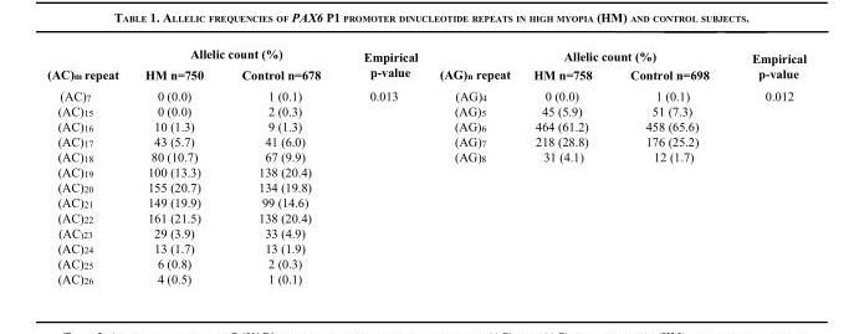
<table><thead><tr><td rowspan="2">(AC)<sub>m</sub> repeat</td><td colspan="2">Allelic count (%)</td><td rowspan="2">Empirical p-value</td><td rowspan="2">(AG)<sub>n</sub> repeat</td><td colspan="2">Allelic count (%)</td><td rowspan="2">Empirical p-value</td></tr><tr><td>HM n=750</td><td>Control n=678</td><td>HM n=758</td><td>Control n=698</td></tr></thead><tbody><tr><td>(AC)<sub>7</sub></td><td>0 (0.0)</td><td>1 (0.1)</td><td rowspan="13">0.013</td><td>(AG)<sub>4</sub></td><td>0 (0.0)</td><td>1 (0.1)</td><td rowspan="13">0.012</td></tr><tr><td>(AC)<sub>15</sub></td><td>0 (0.0)</td><td>2 (0.3)</td><td>(AG)<sub>5</sub></td><td>45 (5.9)</td><td>51 (7.3)</td></tr><tr><td>(AC)<sub>16</sub></td><td>10 (1.3)</td><td>9 (1.3)</td><td>(AG)<sub>6</sub></td><td>464 (61.2)</td><td>458 (65.6)</td></tr><tr><td>(AC)<sub>17</sub></td><td>43 (5.7)</td><td>41 (6.0)</td><td>(AG)<sub>7</sub></td><td>218 (28.8)</td><td>176 (25.2)</td></tr><tr><td>(AC)<sub>18</sub></td><td>80 (10.7)</td><td>67 (9.9)</td><td>(AG)<sub>8</sub></td><td>31 (4.1)</td><td>12 (1.7)</td></tr><tr><td>(AC)<sub>19</sub></td><td>100 (13.3)</td><td>138 (20.4)</td><td></td><td></td><td></td></tr><tr><td>(AC)<sub>20</sub></td><td>155 (20.7)</td><td>134 (19.8)</td><td></td><td></td><td></td></tr><tr><td>(AC)<sub>21</sub></td><td>149 (19.9)</td><td>99 (14.6)</td><td></td><td></td><td></td></tr><tr><td>(AC)<sub>22</sub></td><td>161 (21.5)</td><td>138 (20.4)</td><td></td><td></td><td></td></tr><tr><td>(AC<sub>)23</sub></td><td>29 (3.9)</td><td>33 (4.9)</td><td></td><td></td><td></td></tr><tr><td>(AC)<sub>24</sub></td><td>13 (1.7)</td><td>13 (1.9)</td><td></td><td></td><td></td></tr><tr><td>(AC)<sub>25</sub></td><td>6 (0.8)</td><td>2 (0.3)</td><td></td><td></td><td></td></tr><tr><td>(AC)<sub>26</sub></td><td>4 (0.5)</td><td>1 (0.1)</td><td></td><td></td><td></td></tr></tbody></table>